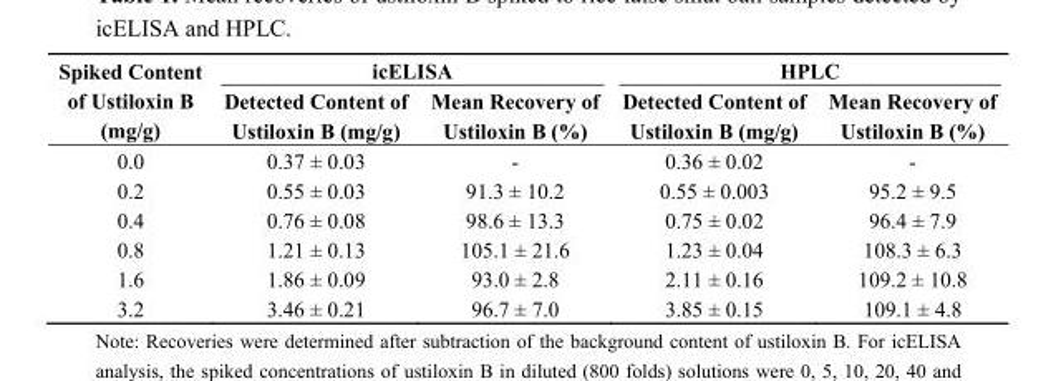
<table><thead><tr><td rowspan="2">Spiked Content of Ustiloxin B (mg/g)</td><td colspan="2">icELISA</td><td colspan="2">HPLC</td></tr><tr><td>Detected Content of Ustiloxin B (mg/g)</td><td>Mean Recovery of Ustiloxin B (%)</td><td>Detected Content of Ustiloxin B (mg/g)</td><td>Mean Recovery of Ustiloxin B (%)</td></tr></thead><tbody><tr><td>0.0</td><td>0.37 ± 0.03</td><td>-</td><td>0.36 ± 0.02</td><td>-</td></tr><tr><td>0.2</td><td>0.55 ± 0.03</td><td>91.3 ± 10.2</td><td>0.55 ± 0.003</td><td>95.2 ± 9.5</td></tr><tr><td>0.4</td><td>0.76 ± 0.08</td><td>98.6 ± 13.3</td><td>0.75 ± 0.02</td><td>96.4 ± 7.9</td></tr><tr><td>0.8</td><td>1.21 ± 0.13</td><td>105.1 ± 21.6</td><td>1.23 ± 0.04</td><td>108.3 ± 6.3</td></tr><tr><td>1.6</td><td>1.86 ± 0.09</td><td>93.0 ± 2.8</td><td>2.11 ± 0.16</td><td>109.2 ± 10.8</td></tr><tr><td>3.2</td><td>3.46 ± 0.21</td><td>96.7 ± 7.0</td><td>3.85 ± 0.15</td><td>109.1 ± 4.8</td></tr></tbody></table>